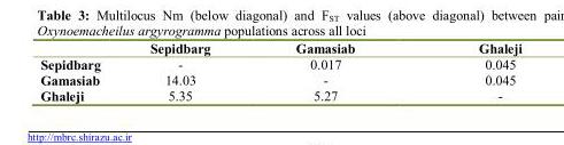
<table><thead><tr><td></td><td>Sepidbarg</td><td>Gamasiab</td><td>Ghaleji</td></tr></thead><tbody><tr><td>Sepidbarg</td><td>-</td><td>0.017</td><td>0.045</td></tr><tr><td>Gamasiab</td><td>14.03</td><td>-</td><td>0.045</td></tr><tr><td>Ghaleji</td><td>5.35</td><td>5.27</td><td>-</td></tr></tbody></table>